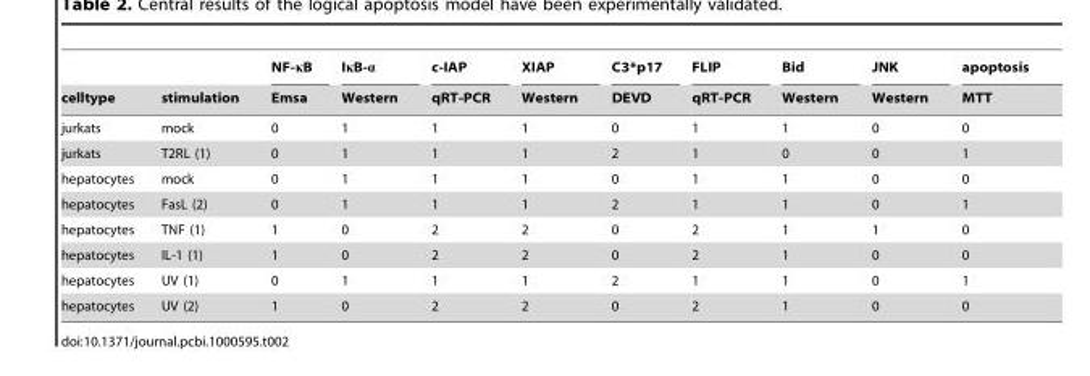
<table><thead><tr><td rowspan="2">celltype</td><td rowspan="2">stimulation</td><td rowspan="2">NF-κB Emsa</td><td rowspan="2">IκB-α Western</td><td rowspan="2">c-IAP qRT-PCR</td><td rowspan="2">XIAP Western</td><td rowspan="2">C3*p17 DEVD</td><td rowspan="2">FLIP qRT-PCR</td><td rowspan="2">Bid Western</td><td rowspan="2">JNK Western</td><td rowspan="2">apoptosis MTT</td></tr><tr></tr></thead><tbody><tr><td>jurkats</td><td>mock</td><td>0</td><td>1</td><td>1</td><td>1</td><td>0</td><td>1</td><td>1</td><td>0</td><td>0</td></tr><tr><td>jurkats</td><td>T2RL (1)</td><td>0</td><td>1</td><td>1</td><td>1</td><td>2</td><td>1</td><td>0</td><td>0</td><td>1</td></tr><tr><td>hepatocytes</td><td>mock</td><td>0</td><td>1</td><td>1</td><td>1</td><td>0</td><td>1</td><td>1</td><td>0</td><td>0</td></tr><tr><td>hepatocytes</td><td>FasL (2)</td><td>0</td><td>1</td><td>1</td><td>1</td><td>2</td><td>1</td><td>1</td><td>0</td><td>1</td></tr><tr><td>hepatocytes</td><td>TNF (1)</td><td>1</td><td>0</td><td>2</td><td>2</td><td>0</td><td>2</td><td>1</td><td>1</td><td>0</td></tr><tr><td>hepatocytes</td><td>IL-1 (1)</td><td>1</td><td>0</td><td>2</td><td>2</td><td>0</td><td>2</td><td>1</td><td>0</td><td>0</td></tr><tr><td>hepatocytes</td><td>UV (1)</td><td>0</td><td>1</td><td>1</td><td>1</td><td>2</td><td>1</td><td>1</td><td>0</td><td>1</td></tr><tr><td>hepatocytes</td><td>UV (2)</td><td>1</td><td>0</td><td>2</td><td>2</td><td>0</td><td>2</td><td>1</td><td>0</td><td>0</td></tr></tbody></table>